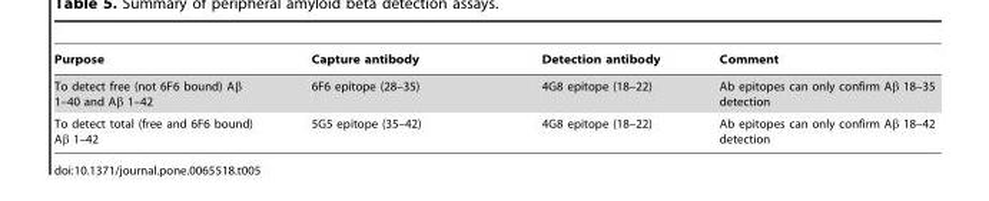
<table><thead><tr><td>Purpose</td><td>Capture antibody</td><td>Detection antibody</td><td>Comment</td></tr></thead><tbody><tr><td>To detect free (not 6F6 bound) Aβ 1–40 and Aβ 1–42</td><td>6F6 epitope (28–35)</td><td>4G8 epitope (18–22)</td><td>Ab epitopes can only confirm Aβ 18–35 detection</td></tr><tr><td>To detect total (free and 6F6 bound) Aβ 1–42</td><td>5G5 epitope (35–42)</td><td>4G8 epitope (18–22)</td><td>Ab epitopes can only confirm Aβ 18–42 detection</td></tr></tbody></table>